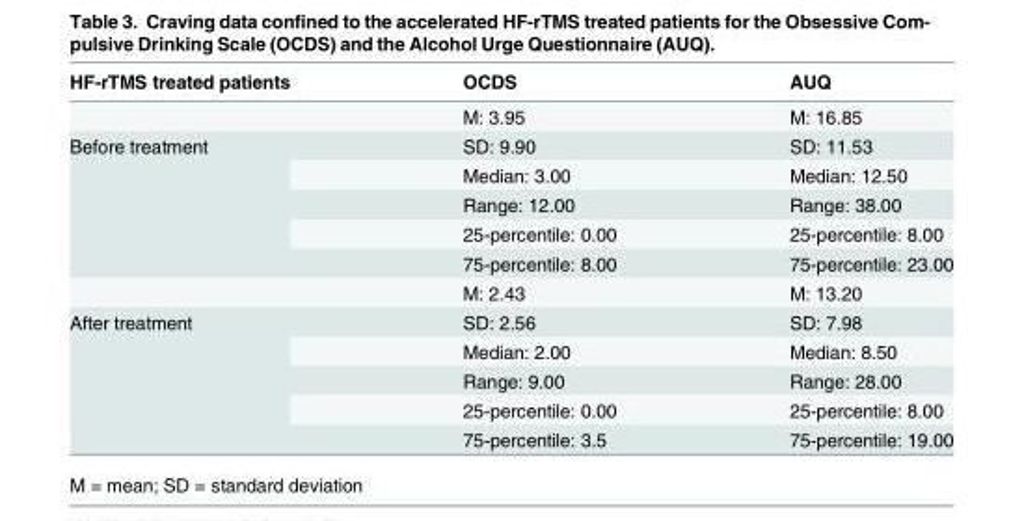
<table><thead><tr><td>HF-rTMS treated patients</td><td>OCDS</td><td>AUQ</td></tr></thead><tbody><tr><td></td><td>M: 3.95</td><td>M: 16.85</td></tr><tr><td rowspan="6">Before treatment</td><td>SD: 9.90</td><td>SD: 11.53</td></tr><tr><td>Median: 3.00</td><td>Median: 12.50</td></tr><tr><td>Range: 12.00</td><td>Range: 38.00</td></tr><tr><td>25-percentile: 0.00</td><td>25-percentile: 8.00</td></tr><tr><td>75-percentile: 8.00</td><td>75-percentile: 23.00</td></tr><tr><td>M: 2.43</td><td>M: 13.20</td></tr><tr><td rowspan="5">After treatment</td><td>SD: 2.56</td><td>SD: 7.98</td></tr><tr><td>Median: 2.00</td><td>Median: 8.50</td></tr><tr><td>Range: 9.00</td><td>Range: 28.00</td></tr><tr><td>25-percentile: 0.00</td><td>25-percentile: 8.00</td></tr><tr><td>75-percentile: 3.5</td><td>75-percentile: 19.00</td></tr></tbody></table>